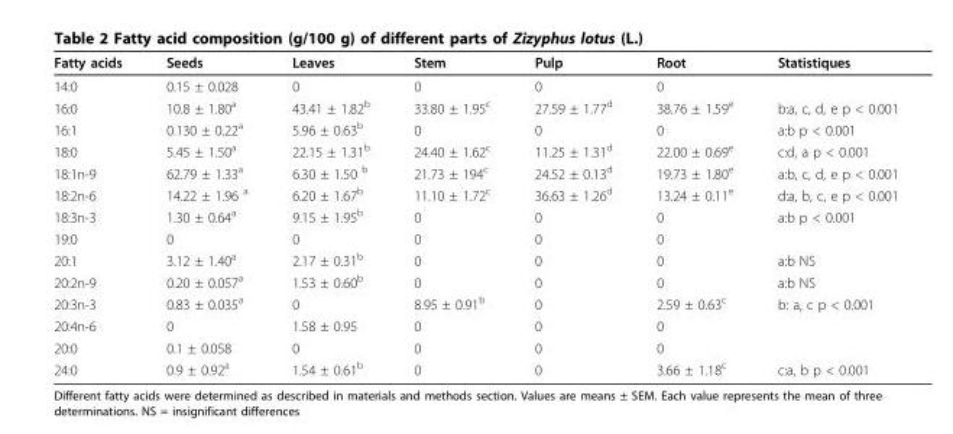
<table><thead><tr><td>Fatty acids</td><td>Seeds</td><td>Leaves</td><td>Stem</td><td>Pulp</td><td>Root</td><td>Statistiques</td></tr></thead><tbody><tr><td>14:0</td><td>0.15 ± 0.028</td><td>0</td><td>0</td><td>0</td><td>0</td><td></td></tr><tr><td>16:0</td><td>10.8 ± 1.80<sup>a</sup></td><td>43.41 ± 1.82<sup>b</sup></td><td>33.80 ± 1.95<sup>c</sup></td><td>27.59 ± 1.77<sup>d</sup></td><td>38.76 ± 1.59<sup>e</sup></td><td>b:a, c, d, e p &lt; 0.001</td></tr><tr><td>16:1</td><td>0.130 ± 0.22<sup>a</sup></td><td>5.96 ± 0.63<sup>b</sup></td><td>0</td><td>0</td><td>0</td><td>a:b p &lt; 0.001</td></tr><tr><td>18:0</td><td>5.45 ± 1.50<sup>a</sup></td><td>22.15 ± 1.31<sup>b</sup></td><td>24.40 ± 1.62<sup>c</sup></td><td>11.25 ± 1.31<sup>d</sup></td><td>22.00 ± 0.69<sup>e</sup></td><td>c:d, a p &lt; 0.001</td></tr><tr><td>18:1n-9</td><td>62.79 ± 1.33<sup>a</sup></td><td>6.30 ± 1.50 <sup>b</sup></td><td>21.73 ± 194<sup>c</sup></td><td>24.52 ± 0.13<sup>d</sup></td><td>19.73 ± 1.80<sup>e</sup></td><td>a:b, c, d, e p &lt; 0.001</td></tr><tr><td>18:2n-6</td><td>14.22 ± 1.96 <sup>a</sup></td><td>6.20 ± 1.67<sup>b</sup></td><td>11.10 ± 1.72<sup>c</sup></td><td>36.63 ± 1.26<sup>d</sup></td><td>13.24 ± 0.11<sup>e</sup></td><td>d:a, b, c, e p &lt; 0.001</td></tr><tr><td>18:3n-3</td><td>1.30 ± 0.64<sup>a</sup></td><td>9.15 ± 1.95<sup>b</sup></td><td>0</td><td>0</td><td>0</td><td>a:b p &lt; 0.001</td></tr><tr><td>19:0</td><td>0</td><td>0</td><td>0</td><td>0</td><td>0</td><td></td></tr><tr><td>20:1</td><td>3.12 ± 1.40<sup>a</sup></td><td>2.17 ± 0.31<sup>b</sup></td><td>0</td><td>0</td><td>0</td><td>a:b NS</td></tr><tr><td>20:2n-9</td><td>0.20 ± 0.057<sup>a</sup></td><td>1.53 ± 0.60<sup>b</sup></td><td>0</td><td>0</td><td>0</td><td>a:b NS</td></tr><tr><td>20:3n-3</td><td>0.83 ± 0.035<sup>a</sup></td><td>0</td><td>8.95 ± 0.91<sup>b</sup></td><td>0</td><td>2.59 ± 0.63<sup>c</sup></td><td>b: a, c p &lt; 0.001</td></tr><tr><td>20:4n-6</td><td>0</td><td>1.58 ± 0.95</td><td>0</td><td>0</td><td>0</td><td></td></tr><tr><td>20:0</td><td>0.1 ± 0.058</td><td>0</td><td>0</td><td>0</td><td>0</td><td></td></tr><tr><td>24:0</td><td>0.9 ± 0.92<sup>a</sup></td><td>1.54 ± 0.61<sup>b</sup></td><td>0</td><td>0</td><td>3.66 ± 1.18<sup>c</sup></td><td>c:a, b p &lt; 0.001</td></tr></tbody></table>